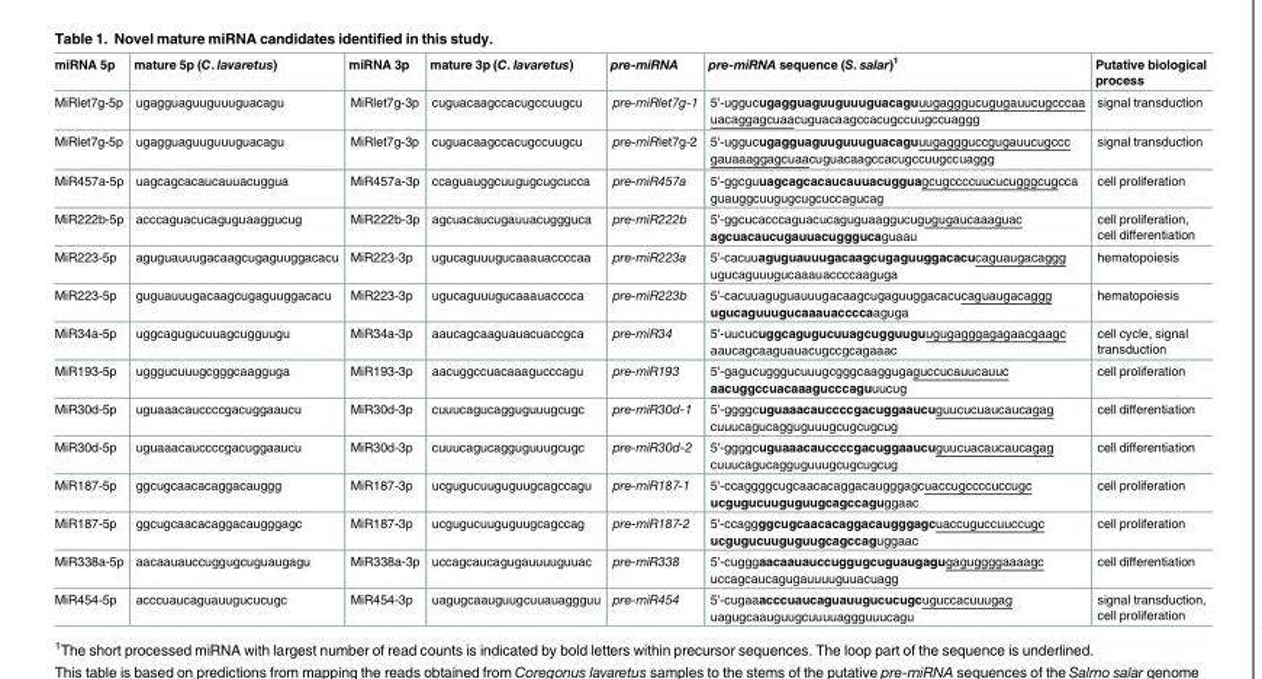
<table><thead><tr><td>miRNA 5p</td><td>mature 5p (C. lavaretus)</td><td>miRNA 3p</td><td>mature 3p (C. lavaretus)</td><td>pre-miRNA</td><td>pre-miRNA sequence (S. salar)<sup>1</sup></td><td>Putative biological process</td></tr></thead><tbody><tr><td>MiRlet7g-5p</td><td>ugagguaguuguuuguacagu</td><td>MiRlet7g-3p</td><td>cuguacaagccacugccuugcu</td><td>pre-miRlet7g-1</td><td>5&#x27;-uggucugagguaguuguuuguacaguuugagggucugugauucugcccaa uacaggagcuaacuguacaagccacugccuugccuaggg</td><td>signal transduction</td></tr><tr><td>MiRlet7g-5p</td><td>ugagguaguuguuuguacagu</td><td>MiRlet7g-3p</td><td>cuguacaagccacugccuugcu</td><td>pre-miRlet7g-2</td><td>5&#x27;-uggucugagguaguuguuuguacaguuugaggguccgugauucugccc gauaaaggagcuaacuguacaagccacugccuugccuaggg</td><td>signal transduction</td></tr><tr><td>MiR457a-5p</td><td>uagcagcacaucauuacuggua</td><td>MiR457a-3p</td><td>ccaguauggcuugugcugcucca</td><td>pre-miR457a</td><td>5&#x27;-ggcguuagcagcacaucauuacugguagcugccccuucucugggcugcca guauggcuugugcugcuccagucag</td><td>cell proliferation</td></tr><tr><td>MiR222b-5p</td><td>acccaguacucaguguaaggucug</td><td>MiR222b-3p</td><td>agcuacaucugauuacuggguca</td><td>pre-miR222b</td><td>5&#x27;-ggcucacccaguacucaguguaaggucugugugaucaaaguac agcuacaucugauuacugggucaguaau</td><td>cell proliferation, cell differentiation</td></tr><tr><td>MiR223-5p</td><td>aguguauuugacaagcugaguuggacacu</td><td>MiR223-3p</td><td>ugucaguuugucaaauaccccaa</td><td>pre-miR223a</td><td>5&#x27;-cacuuaguguauuugacaagcugaguuggacacucaguaugacaggg ugucaguuugucaaauaccccaaguga</td><td>hematopoiesis</td></tr><tr><td>MiR223-5p</td><td>guguauuugacaagcugaguuggacacu</td><td>MiR223-3p</td><td>ugucaguuugucaaauacccca</td><td>pre-miR223b</td><td>5&#x27;-cacuuaguguauuugacaagcugaguuggacacucaguaugacaggg ugucaguuugucaaauaccccaaguga</td><td>hematopoiesis</td></tr><tr><td>MiR34a-5p</td><td>uggcagugucuuagcugguugu</td><td>MiR34a-3p</td><td>aaucagcaaguauacuaccgca</td><td>pre-miR34</td><td>5&#x27;-uucucuggcagugucuuagcugguuguugugagggagagaacgaagc aaucagcaaguauacugccgcagaaac</td><td>cell cycle, signal transduction</td></tr><tr><td>MiR193-5p</td><td>ugggucuuugcgggcaagguga</td><td>MiR193-3p</td><td>aacuggccuacaaagucccagu</td><td>pre-miR193</td><td>5&#x27;-gagucugggucuuugcgggcaaggugaguccucauucauuc aacuggccuacaaagucccaguuucug</td><td>cell proliferation</td></tr><tr><td>MiR30d-5p</td><td>uguaaacauccccgacuggaaucu</td><td>MiR30d-3p</td><td>cuuucagucagguguuugcugc</td><td>pre-miR30d-1</td><td>5&#x27;-ggggcuguaaacauccccgacuggaaucuguucucuaucaucagag cuuucagucagguguuugcugcugcug</td><td>cell differentiation</td></tr><tr><td>MiR30d-5p</td><td>uguaaacauccccgacuggaaucu</td><td>MiR30d-3p</td><td>cuuucagucagguguuugcugc</td><td>pre-miR30d-2</td><td>5&#x27;-ggggcuguaaacauccccgacuggaaucuguucuacaucaucagag cuuucagucagguguuugcugcugcug</td><td>cell differentiation</td></tr><tr><td>MiR187-5p</td><td>ggcugcaacacaggacauggg</td><td>MiR187-3p</td><td>ucgugucuuguguugcagccagu</td><td>pre-miR187-1</td><td>5&#x27;-ccaggggcugcaacacaggacaugggagcuaccugccccuccugc ucgugucuuguguugcagccaguggaac</td><td>cell proliferation</td></tr><tr><td>MiR187-5p</td><td>ggcugcaacacaggacaugggagc</td><td>MiR187-3p</td><td>ucgugucuuguguugcagccag</td><td>pre-miR187-2</td><td>5&#x27;-ccaggggcugcaacacaggacaugggagcuaccuguccuuccugc ucgugucuuguguugcagccaguggaac</td><td>cell proliferation</td></tr><tr><td>MiR338a-5p</td><td>aacaauauccuggugcuguaugagu</td><td>MiR338a-3p</td><td>uccagcaucagugauuuuguuac</td><td>pre-miR338</td><td>5&#x27;-cugggaacaauauccuggugcuguaugagugaguggggaaaagc uccagcaucagugauuuuguuacuagg</td><td>cell differentiation</td></tr><tr><td>MiR454-5p</td><td>acccuaucaguauugucucugc</td><td>MiR454-3p</td><td>uagugcaauguugcuuauaggguu</td><td>pre-miR454</td><td>5&#x27;-cugaaacccuaucaguauugucucugcuguccacuuugag uagugcaauguugcuuuuaggguuucagu</td><td>signal transduction, cell proliferation</td></tr></tbody></table>